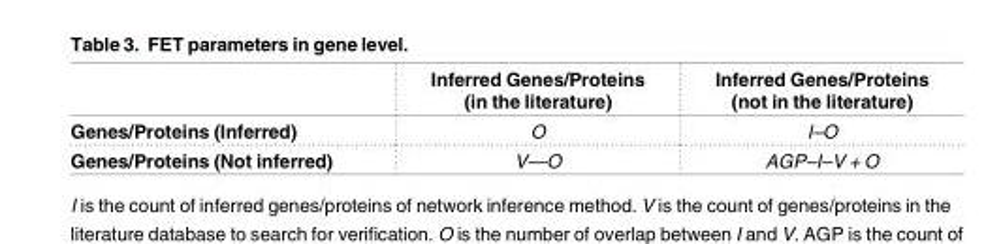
<table><thead><tr><td></td><td>Inferred Genes/Proteins (in the literature)</td><td>Inferred Genes/Proteins (not in the literature)</td></tr></thead><tbody><tr><td>Genes/Proteins (Inferred)</td><td>O</td><td>I–O</td></tr><tr><td>Genes/Proteins (Not inferred)</td><td>V—O</td><td>AGP–I–V + O</td></tr></tbody></table>